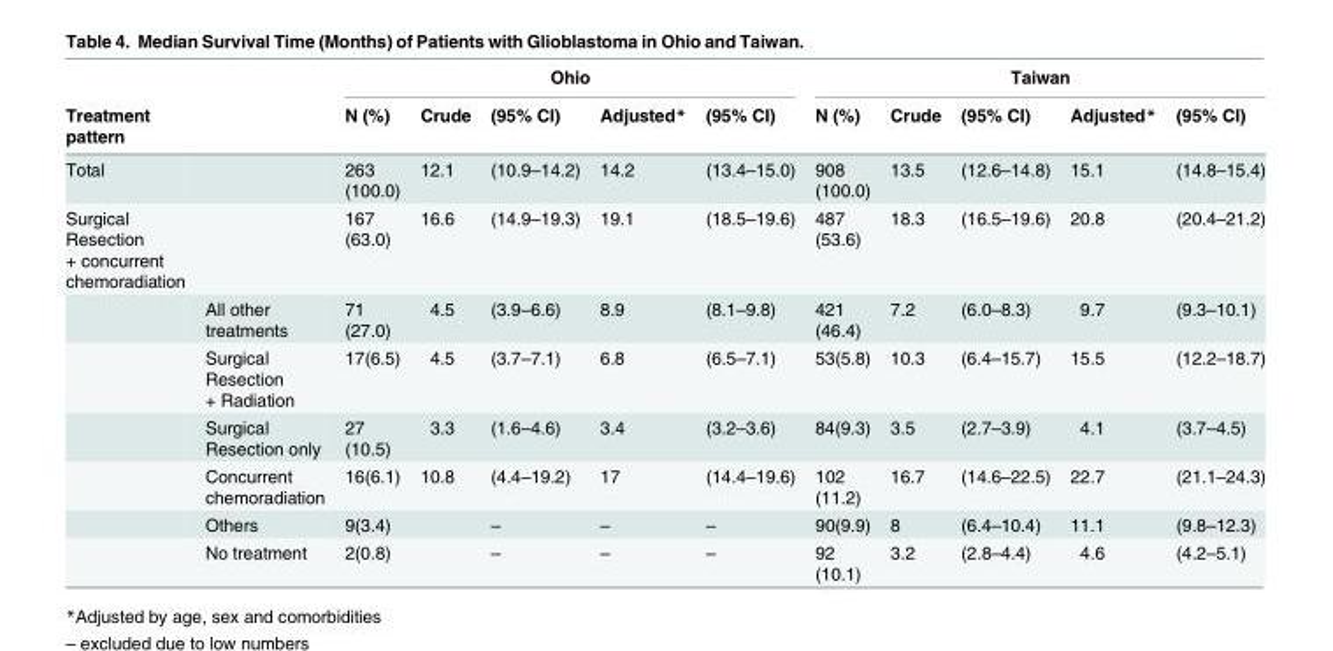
<table><thead><tr><td rowspan="2">Treatment pattern</td><td rowspan="2"></td><td colspan="5">Ohio</td><td colspan="5">Taiwan</td></tr><tr><td>N (%)</td><td>Crude</td><td>(95% CI)</td><td>Adjusted*</td><td>(95% CI)</td><td>N (%)</td><td>Crude</td><td>(95% CI)</td><td>Adjusted*</td><td>(95% CI)</td></tr></thead><tbody><tr><td>Total</td><td></td><td>263 (100.0)</td><td>12.1</td><td>(10.9–14.2)</td><td>14.2</td><td>(13.4–15.0)</td><td>908 (100.0)</td><td>13.5</td><td>(12.6–14.8)</td><td>15.1</td><td>(14.8–15.4)</td></tr><tr><td rowspan="7">Surgical Resection + concurrent chemoradiation</td><td></td><td>167 (63.0)</td><td>16.6</td><td>(14.9–19.3)</td><td>19.1</td><td>(18.5–19.6)</td><td>487 (53.6)</td><td>18.3</td><td>(16.5–19.6)</td><td>20.8</td><td>(20.4–21.2)</td></tr><tr><td>All other treatments</td><td>71 (27.0)</td><td>4.5</td><td>(3.9–6.6)</td><td>8.9</td><td>(8.1–9.8)</td><td>421 (46.4)</td><td>7.2</td><td>(6.0–8.3)</td><td>9.7</td><td>(9.3–10.1)</td></tr><tr><td>Surgical Resection + Radiation</td><td>17(6.5)</td><td>4.5</td><td>(3.7–7.1)</td><td>6.8</td><td>(6.5–7.1)</td><td>53(5.8)</td><td>10.3</td><td>(6.4–15.7)</td><td>15.5</td><td>(12.2–18.7)</td></tr><tr><td>Surgical Resection only</td><td>27 (10.5)</td><td>3.3</td><td>(1.6–4.6)</td><td>3.4</td><td>(3.2–3.6)</td><td>84(9.3)</td><td>3.5</td><td>(2.7–3.9)</td><td>4.1</td><td>(3.7–4.5)</td></tr><tr><td>Concurrent chemoradiation</td><td>16(6.1)</td><td>10.8</td><td>(4.4–19.2)</td><td>17</td><td>(14.4–19.6)</td><td>102 (11.2)</td><td>16.7</td><td>(14.6–22.5)</td><td>22.7</td><td>(21.1–24.3)</td></tr><tr><td>Others</td><td>9(3.4)</td><td></td><td>–</td><td>–</td><td>–</td><td>90(9.9)</td><td>8</td><td>(6.4–10.4)</td><td>11.1</td><td>(9.8–12.3)</td></tr><tr><td>No treatment</td><td>2(0.8)</td><td></td><td>–</td><td>–</td><td>–</td><td>92 (10.1)</td><td>3.2</td><td>(2.8–4.4)</td><td>4.6</td><td>(4.2–5.1)</td></tr></tbody></table>